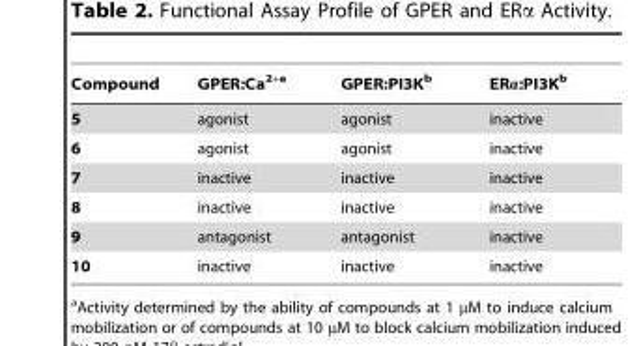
<table><thead><tr><td>Compound</td><td>GPER:Ca2+a</td><td>GPER:PI3Kb</td><td>ERα:PI3Kb</td></tr></thead><tbody><tr><td>5</td><td>agonist</td><td>agonist</td><td>inactive</td></tr><tr><td>6</td><td>agonist</td><td>agonist</td><td>inactive</td></tr><tr><td>7</td><td>inactive</td><td>inactive</td><td>inactive</td></tr><tr><td>8</td><td>inactive</td><td>inactive</td><td>inactive</td></tr><tr><td>9</td><td>antagonist</td><td>antagonist</td><td>inactive</td></tr><tr><td>10</td><td>inactive</td><td>inactive</td><td>inactive</td></tr></tbody></table>